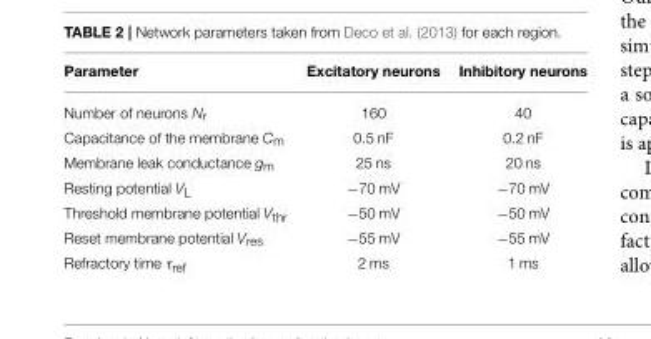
<table><thead><tr><td>Parameter</td><td>Excitatory neurons</td><td>Inhibitory neurons</td></tr></thead><tbody><tr><td>Number of neurons N<sub>r</sub></td><td>160</td><td>40</td></tr><tr><td>Capacitance of the membrane C<sub>m</sub></td><td>0.5 nF</td><td>0.2 nF</td></tr><tr><td>Membrane leak conductance g<sub>m</sub></td><td>25 ns</td><td>20 ns</td></tr><tr><td>Resting potential V<sub>L</sub></td><td>−70 mV</td><td>−70 mV</td></tr><tr><td>Threshold membrane potential V<sub>thr</sub></td><td>−50 mV</td><td>−50 mV</td></tr><tr><td>Reset membrane potential V<sub>res</sub></td><td>−55 mV</td><td>−55 mV</td></tr><tr><td>Refractory time τ<sub>ref</sub></td><td>2 ms</td><td>1 ms</td></tr></tbody></table>